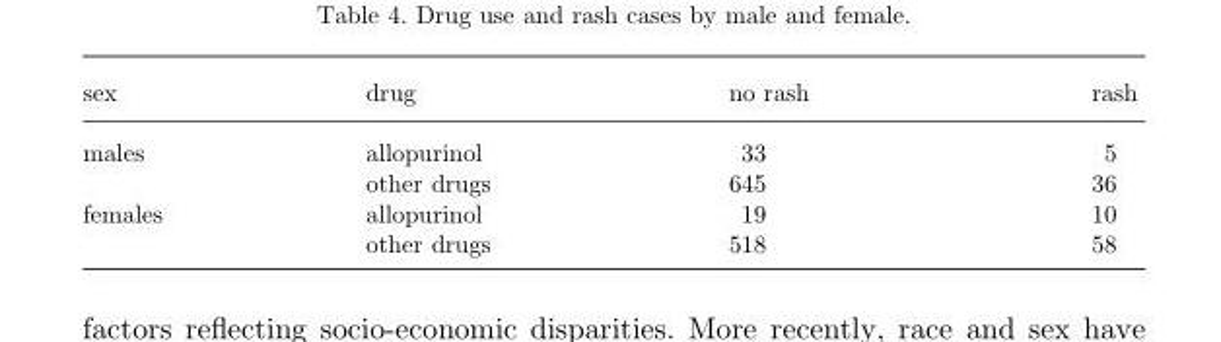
<table><thead><tr><td>sex</td><td>drug</td><td>no rash</td><td>rash</td></tr></thead><tbody><tr><td rowspan="2">males</td><td>allopurinol</td><td>33</td><td>5</td></tr><tr><td>other drugs</td><td>645</td><td>36</td></tr><tr><td rowspan="2">females</td><td>allopurinol</td><td>19</td><td>10</td></tr><tr><td>other drugs</td><td>518</td><td>58</td></tr></tbody></table>